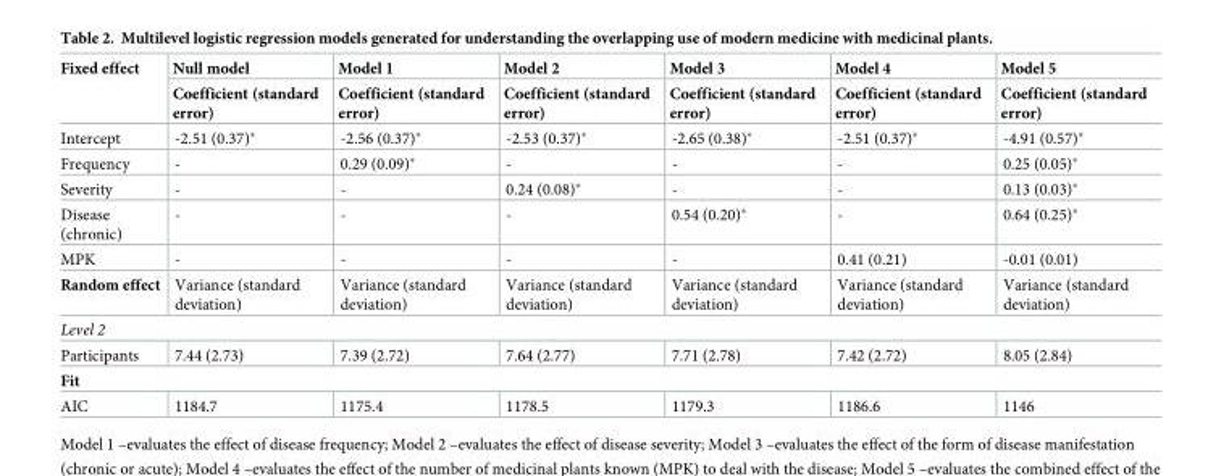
<table><thead><tr><td rowspan="2">Fixed effect</td><td rowspan="2">Null model Coefficient (standard error)</td><td rowspan="2">Model 1 Coefficient (standard error)</td><td rowspan="2">Model 2 Coefficient (standard error)</td><td rowspan="2">Model 3 Coefficient (standard error)</td><td rowspan="2">Model 4 Coefficient (standard error)</td><td rowspan="2">Model 5 Coefficient (standard error)</td></tr><tr></tr></thead><tbody><tr><td>Intercept</td><td>-2.51 (0.37)*</td><td>-2.56 (0.37)*</td><td>-2.53 (0.37)*</td><td>-2.65 (0.38)*</td><td>-2.51 (0.37)*</td><td>-4.91 (0.57)*</td></tr><tr><td>Frequency</td><td>-</td><td>0.29 (0.09)*</td><td>-</td><td>-</td><td>-</td><td>0.25 (0.05)*</td></tr><tr><td>Severity</td><td>-</td><td>-</td><td>0.24 (0.08)*</td><td>-</td><td>-</td><td>0.13 (0.03)*</td></tr><tr><td>Disease (chronic)</td><td>-</td><td>-</td><td>-</td><td>0.54 (0.20)*</td><td>-</td><td>0.64 (0.25)*</td></tr><tr><td>MPK</td><td>-</td><td>-</td><td>-</td><td>-</td><td>0.41 (0.21)</td><td>-0.01 (0.01)</td></tr><tr><td>Random effect</td><td>Variance (standard deviation)</td><td>Variance (standard deviation)</td><td>Variance (standard deviation)</td><td>Variance (standard deviation)</td><td>Variance (standard deviation)</td><td>Variance (standard deviation)</td></tr><tr><td colspan="7">Level 2</td></tr><tr><td>Participants</td><td>7.44 (2.73)</td><td>7.39 (2.72)</td><td>7.64 (2.77)</td><td>7.71 (2.78)</td><td>7.42 (2.72)</td><td>8.05 (2.84)</td></tr><tr><td colspan="7">Fit</td></tr><tr><td>AIC</td><td>1184.7</td><td>1175.4</td><td>1178.5</td><td>1179.3</td><td>1186.6</td><td>1146</td></tr></tbody></table>